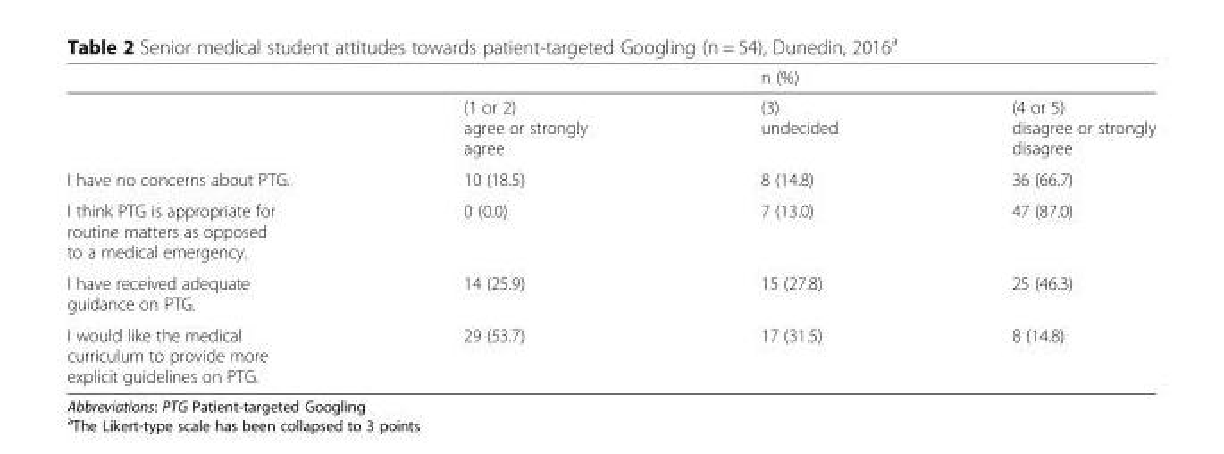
<table><thead><tr><td></td><td></td><td>n (%)</td><td></td></tr></thead><tbody><tr><td></td><td>(1 or 2) agree or strongly agree</td><td>(3) undecided</td><td>(4 or 5) disagree or strongly disagree</td></tr><tr><td>I have no concerns about PTG.</td><td>10 (18.5)</td><td>8 (14.8)</td><td>36 (66.7)</td></tr><tr><td>I think PTG is appropriate for routine matters as opposed to a medical emergency.</td><td>0 (0.0)</td><td>7 (13.0)</td><td>47 (87.0)</td></tr><tr><td>I have received adequate guidance on PTG.</td><td>14 (25.9)</td><td>15 (27.8)</td><td>25 (46.3)</td></tr><tr><td>I would like the medical curriculum to provide more explicit guidelines on PTG.</td><td>29 (53.7)</td><td>17 (31.5)</td><td>8 (14.8)</td></tr></tbody></table>